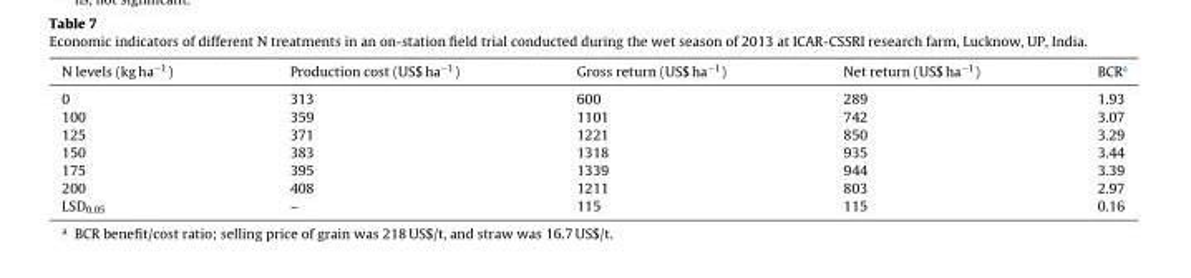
<table><thead><tr><td>N levels (kg ha<sup>−1</sup>)</td><td>Production cost (US$ ha<sup>−1</sup>)</td><td>Gross return (US$ ha<sup>−1</sup>)</td><td>Net return (US$ ha<sup>−1</sup>)</td><td>BCR<sup>a</sup></td></tr></thead><tbody><tr><td>0</td><td>313</td><td>600</td><td>289</td><td>1.93</td></tr><tr><td>100</td><td>359</td><td>1101</td><td>742</td><td>3.07</td></tr><tr><td>125</td><td>371</td><td>1221</td><td>850</td><td>3.29</td></tr><tr><td>150</td><td>383</td><td>1318</td><td>935</td><td>3.44</td></tr><tr><td>175</td><td>395</td><td>1339</td><td>944</td><td>3.39</td></tr><tr><td>200</td><td>408</td><td>1211</td><td>803</td><td>2.97</td></tr><tr><td>LSD<sub>0.05</sub></td><td>–</td><td>115</td><td>115</td><td>0.16</td></tr></tbody></table>